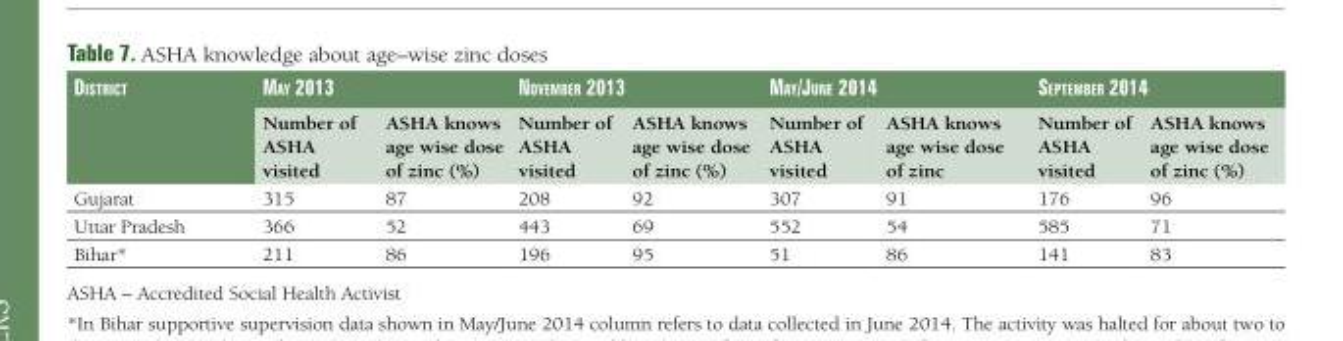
<table><thead><tr><td rowspan="2">district</td><td colspan="2">may 2013</td><td colspan="2">novemBer 2013</td><td colspan="2">may/june 2014</td><td colspan="2">sePtemBer 2014</td></tr><tr><td>Number of ASHA visited</td><td>ASHA knows age wise dose of zinc (%)</td><td>Number of ASHA visited</td><td>ASHA knows age wise dose of zinc (%)</td><td>Number of ASHA visited</td><td>ASHA knows age wise dose of zinc</td><td>Number of ASHA visited</td><td>ASHA knows age wise dose of zinc (%)</td></tr></thead><tbody><tr><td>Gujarat</td><td>315</td><td>87</td><td>208</td><td>92</td><td>307</td><td>91</td><td>176</td><td>96</td></tr><tr><td>Uttar Pradesh</td><td>366</td><td>52</td><td>443</td><td>69</td><td>552</td><td>54</td><td>585</td><td>71</td></tr><tr><td>Bihar*</td><td>211</td><td>86</td><td>196</td><td>95</td><td>51</td><td>86</td><td>141</td><td>83</td></tr></tbody></table>